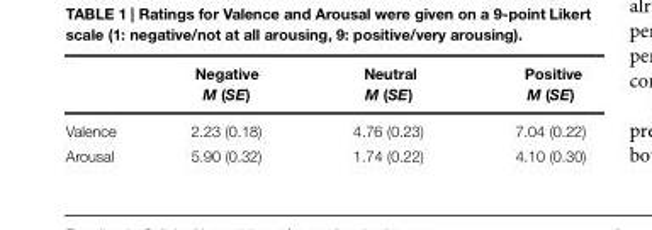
<table><thead><tr><td></td><td>Negative M (SE)</td><td>Neutral M (SE)</td><td>Positive M (SE)</td></tr></thead><tbody><tr><td>Valence</td><td>2.23 (0.18)</td><td>4.76 (0.23)</td><td>7.04 (0.22)</td></tr><tr><td>Arousal</td><td>5.90 (0.32)</td><td>1.74 (0.22)</td><td>4.10 (0.30)</td></tr></tbody></table>